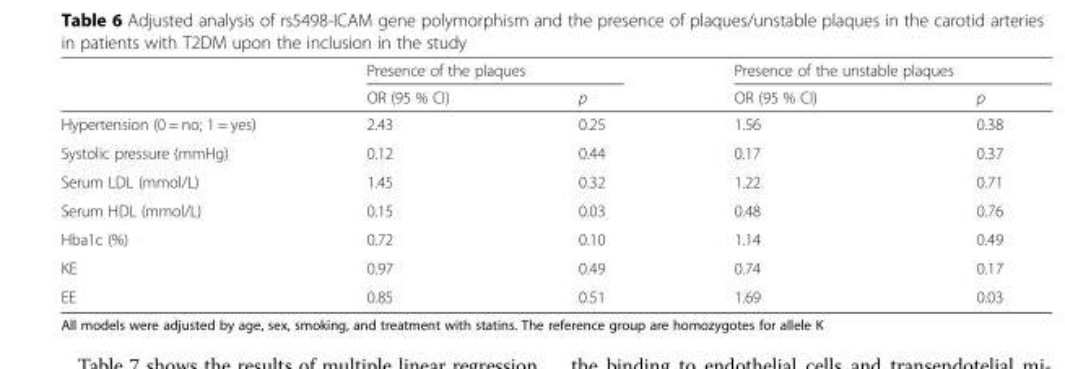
<table><thead><tr><td rowspan="2"></td><td colspan="2">Presence of the plaques</td><td colspan="2">Presence of the unstable plaques</td></tr><tr><td>OR (95 % CI)</td><td>p</td><td>OR (95 % CI)</td><td>p</td></tr></thead><tbody><tr><td>Hypertension (0 = no; 1 = yes)</td><td>2.43</td><td>0.25</td><td>1.56</td><td>0.38</td></tr><tr><td>Systolic pressure (mmHg)</td><td>0.12</td><td>0.44</td><td>0.17</td><td>0.37</td></tr><tr><td>Serum LDL (mmol/L)</td><td>1.45</td><td>0.32</td><td>1.22</td><td>0.71</td></tr><tr><td>Serum HDL (mmol/L)</td><td>0.15</td><td>0.03</td><td>0.48</td><td>0.76</td></tr><tr><td>Hba1c (%)</td><td>0.72</td><td>0.10</td><td>1.14</td><td>0.49</td></tr><tr><td>KE</td><td>0.97</td><td>0.49</td><td>0.74</td><td>0.17</td></tr><tr><td>EE</td><td>0.85</td><td>0.51</td><td>1.69</td><td>0.03</td></tr></tbody></table>